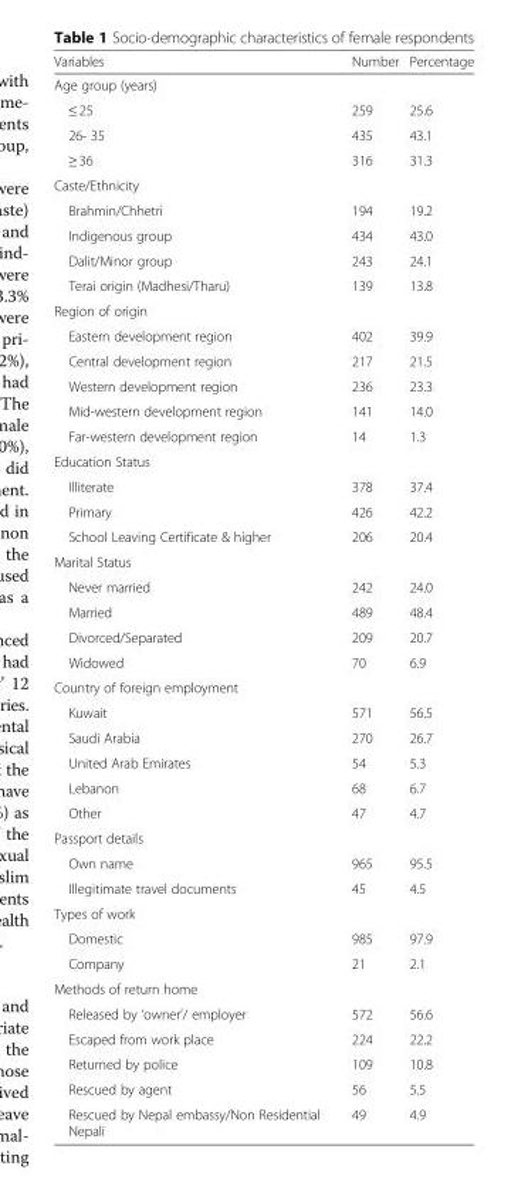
<table><thead><tr><td>Variables</td><td>Number</td><td>Percentage</td></tr></thead><tbody><tr><td colspan="3">Age group (years)</td></tr><tr><td>≤ 25</td><td>259</td><td>25.6</td></tr><tr><td>26- 35</td><td>435</td><td>43.1</td></tr><tr><td>≥ 36</td><td>316</td><td>31.3</td></tr><tr><td colspan="3">Caste/Ethnicity</td></tr><tr><td>Brahmin/Chhetri</td><td>194</td><td>19.2</td></tr><tr><td>Indigenous group</td><td>434</td><td>43.0</td></tr><tr><td>Dalit/Minor group</td><td>243</td><td>24.1</td></tr><tr><td>Terai origin (Madhesi/Tharu)</td><td>139</td><td>13.8</td></tr><tr><td colspan="3">Region of origin</td></tr><tr><td>Eastern development region</td><td>402</td><td>39.9</td></tr><tr><td>Central development region</td><td>217</td><td>21.5</td></tr><tr><td>Western development region</td><td>236</td><td>23.3</td></tr><tr><td>Mid-western development region</td><td>141</td><td>14.0</td></tr><tr><td>Far-western development region</td><td>14</td><td>1.3</td></tr><tr><td colspan="3">Education Status</td></tr><tr><td>Illiterate</td><td>378</td><td>37.4</td></tr><tr><td>Primary</td><td>426</td><td>42.2</td></tr><tr><td>School Leaving Certificate &amp; higher</td><td>206</td><td>20.4</td></tr><tr><td colspan="3">Marital Status</td></tr><tr><td>Never married</td><td>242</td><td>24.0</td></tr><tr><td>Married</td><td>489</td><td>48.4</td></tr><tr><td>Divorced/Separated</td><td>209</td><td>20.7</td></tr><tr><td>Widowed</td><td>70</td><td>6.9</td></tr><tr><td colspan="3">Country of foreign employment</td></tr><tr><td>Kuwait</td><td>571</td><td>56.5</td></tr><tr><td>Saudi Arabia</td><td>270</td><td>26.7</td></tr><tr><td>United Arab Emirates</td><td>54</td><td>5.3</td></tr><tr><td>Lebanon</td><td>68</td><td>6.7</td></tr><tr><td>Other</td><td>47</td><td>4.7</td></tr><tr><td colspan="3">Passport details</td></tr><tr><td>Own name</td><td>965</td><td>95.5</td></tr><tr><td>Illegitimate travel documents</td><td>45</td><td>4.5</td></tr><tr><td colspan="3">Types of work</td></tr><tr><td>Domestic</td><td>985</td><td>97.9</td></tr><tr><td>Company</td><td>21</td><td>2.1</td></tr><tr><td colspan="3">Methods of return home</td></tr><tr><td>Released by ‘owner’/ employer</td><td>572</td><td>56.6</td></tr><tr><td>Escaped from work place</td><td>224</td><td>22.2</td></tr><tr><td>Returned by police</td><td>109</td><td>10.8</td></tr><tr><td>Rescued by agent</td><td>56</td><td>5.5</td></tr><tr><td>Rescued by Nepal embassy/Non Residential Nepali</td><td>49</td><td>4.9</td></tr></tbody></table>